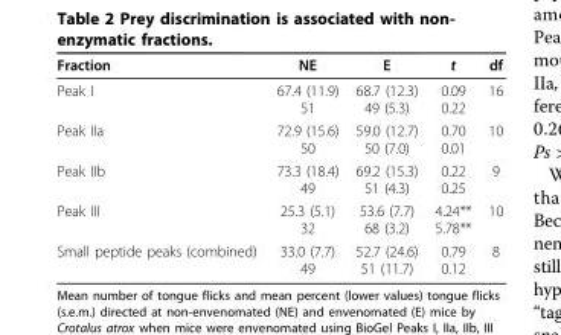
<table><thead><tr><td>Fraction</td><td>NE</td><td>E</td><td>t</td><td>df</td></tr></thead><tbody><tr><td>Peak I</td><td>67.4 (11.9) 51</td><td>68.7 (12.3) 49 (5.3)</td><td>0.09 0.22</td><td>16</td></tr><tr><td>Peak IIa</td><td>72.9 (15.6) 50</td><td>59.0 (12.7) 50 (7.0)</td><td>0.70 0.01</td><td>10</td></tr><tr><td>Peak IIb</td><td>73.3 (18.4) 49</td><td>69.2 (15.3) 51 (4.3)</td><td>0.22 0.25</td><td>9</td></tr><tr><td>Peak III</td><td>25.3 (5.1) 32</td><td>53.6 (7.7) 68 (3.2)</td><td>4.24** 5.78**</td><td>10</td></tr><tr><td>Small peptide peaks (combined)</td><td>33.0 (7.7) 49</td><td>52.7 (24.6) 51 (11.7)</td><td>0.79 0.12</td><td>8</td></tr></tbody></table>